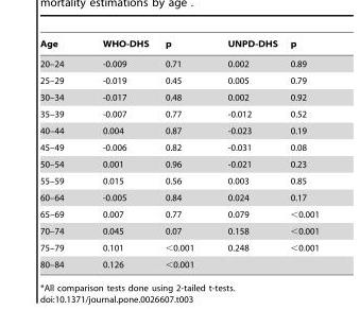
<table><thead><tr><td>Age</td><td>WHO-DHS</td><td>p</td><td>UNPD-DHS</td><td>p</td></tr></thead><tbody><tr><td>20–24</td><td>-0.009</td><td>0.71</td><td>0.002</td><td>0.89</td></tr><tr><td>25–29</td><td>-0.019</td><td>0.45</td><td>0.005</td><td>0.79</td></tr><tr><td>30–34</td><td>-0.017</td><td>0.48</td><td>0.002</td><td>0.92</td></tr><tr><td>35–39</td><td>-0.007</td><td>0.77</td><td>-0.012</td><td>0.52</td></tr><tr><td>40–44</td><td>0.004</td><td>0.87</td><td>-0.023</td><td>0.19</td></tr><tr><td>45–49</td><td>-0.006</td><td>0.82</td><td>-0.031</td><td>0.08</td></tr><tr><td>50–54</td><td>0.001</td><td>0.96</td><td>-0.021</td><td>0.23</td></tr><tr><td>55–59</td><td>0.015</td><td>0.56</td><td>0.003</td><td>0.85</td></tr><tr><td>60–64</td><td>-0.005</td><td>0.84</td><td>0.024</td><td>0.17</td></tr><tr><td>65–69</td><td>0.007</td><td>0.77</td><td>0.079</td><td>&lt;0.001</td></tr><tr><td>70–74</td><td>0.045</td><td>0.07</td><td>0.158</td><td>&lt;0.001</td></tr><tr><td>75–79</td><td>0.101</td><td>&lt;0.001</td><td>0.248</td><td>&lt;0.001</td></tr><tr><td>80–84</td><td>0.126</td><td>&lt;0.001</td><td></td><td></td></tr></tbody></table>